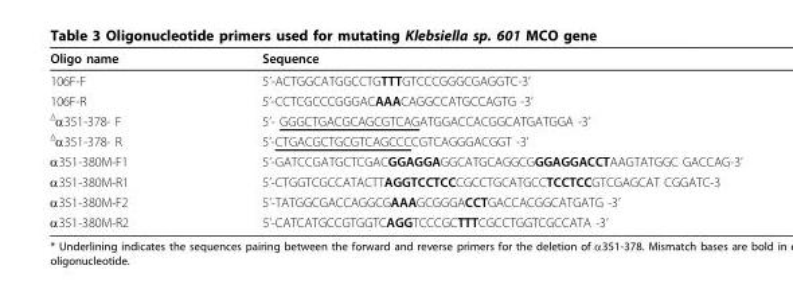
<table><thead><tr><td>Oligo name</td><td>Sequence</td></tr></thead><tbody><tr><td>106F-F</td><td>5’-ACTGGCATGGCCTGTTTGTCCCGGGCGAGGTC-3’</td></tr><tr><td>106F-R</td><td>5’-CCTCGCCCGGGACAAACAGGCCATGCCAGTG -3’</td></tr><tr><td><sup>Δ</sup>α351-378- F</td><td>5’- GGGCTGACGCAGCGTCAGATGGACCACGGCATGATGGA -3’</td></tr><tr><td><sup>Δ</sup>α351-378- R</td><td>5’-CTGACGCTGCGTCAGCCCCGTCAGGGACGGT -3’</td></tr><tr><td>α351-380M-F1</td><td>5’-GATCCGATGCTCGACGGAGGAGGCATGCAGGCGGGAGGACCTAAGTATGGC GACCAG-3’</td></tr><tr><td>α351-380M-R1</td><td>5’-CTGGTCGCCATACTTAGGTCCTCCCGCCTGCATGCCTCCTCCGTCGAGCAT CGGATC-3</td></tr><tr><td>α351-380M-F2</td><td>5’-TATGGCGACCAGGCGAAAGCGGGACCTGACCACGGCATGATG -3’</td></tr><tr><td>α351-380M-R2</td><td>5’-CATCATGCCGTGGTCAGGTCCCGCTTTCGCCTGGTCGCCATA -3’</td></tr></tbody></table>